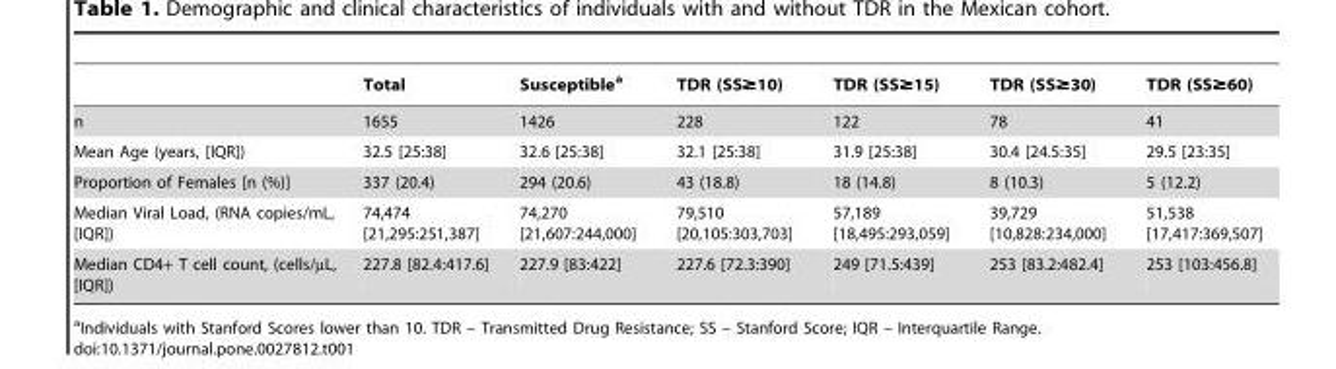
<table><thead><tr><td></td><td>Total</td><td>Susceptible<sup>a</sup></td><td>TDR (SS≥10)</td><td>TDR (SS≥15)</td><td>TDR (SS≥30)</td><td>TDR (SS≥60)</td></tr></thead><tbody><tr><td>n</td><td>1655</td><td>1426</td><td>228</td><td>122</td><td>78</td><td>41</td></tr><tr><td>Mean Age (years, [IQR])</td><td>32.5 [25:38]</td><td>32.6 [25:38]</td><td>32.1 [25:38]</td><td>31.9 [25:38]</td><td>30.4 [24.5:35]</td><td>29.5 [23:35]</td></tr><tr><td>Proportion of Females [n (%)]</td><td>337 (20.4)</td><td>294 (20.6)</td><td>43 (18.8)</td><td>18 (14.8)</td><td>8 (10.3)</td><td>5 (12.2)</td></tr><tr><td>Median Viral Load, (RNA copies/mL, [IQR])</td><td>74,474 [21,295:251,387]</td><td>74,270 [21,607:244,000]</td><td>79,510 [20,105:303,703]</td><td>57,189 [18,495:293,059]</td><td>39,729 [10,828:234,000]</td><td>51,538 [17,417:369,507]</td></tr><tr><td>Median CD4+ T cell count, (cells/µL, [IQR])</td><td>227.8 [82.4:417.6]</td><td>227.9 [83:422]</td><td>227.6 [72.3:390]</td><td>249 [71.5:439]</td><td>253 [83.2:482.4]</td><td>253 [103:456.8]</td></tr></tbody></table>